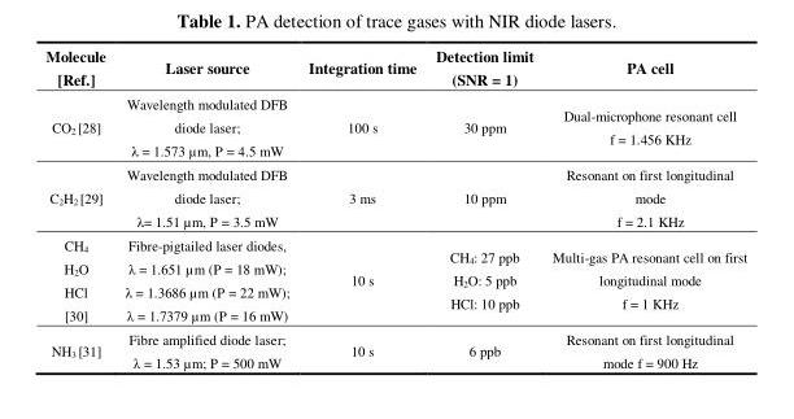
<table><thead><tr><td>Molecule [Ref.]</td><td>Laser source</td><td>Integration time</td><td>Detection limit (SNR = 1)</td><td>PA cell</td></tr></thead><tbody><tr><td>CO<sub>2</sub> [28]</td><td>Wavelength modulated DFB diode laser; λ = 1.573 µm, P = 4.5 mW</td><td>100 s</td><td>30 ppm</td><td>Dual-microphone resonant cell f = 1.456 KHz</td></tr><tr><td>C<sub>2</sub>H<sub>2</sub> [29]</td><td>Wavelength modulated DFB diode laser; λ= 1.51 µm, P = 3.5 mW</td><td>3 ms</td><td>10 ppm</td><td>Resonant on first longitudinal mode f = 2.1 KHz</td></tr><tr><td>CH<sub>4</sub> H<sub>2</sub>O HCl [30]</td><td>Fibre-pigtailed laser diodes, λ = 1.651 µm (P = 18 mW); λ = 1.3686 µm (P = 22 mW); λ = 1.7379 µm (P = 16 mW)</td><td>10 s</td><td>CH<sub>4</sub>: 27 ppb H<sub>2</sub>O: 5 ppb HCl: 10 ppb</td><td>Multi-gas PA resonant cell on first longitudinal mode f = 1 KHz</td></tr><tr><td>NH<sub>3</sub> [31]</td><td>Fibre amplified diode laser; λ = 1.53 µm; P = 500 mW</td><td>10 s</td><td>6 ppb</td><td>Resonant on first longitudinal mode f = 900 Hz</td></tr></tbody></table>